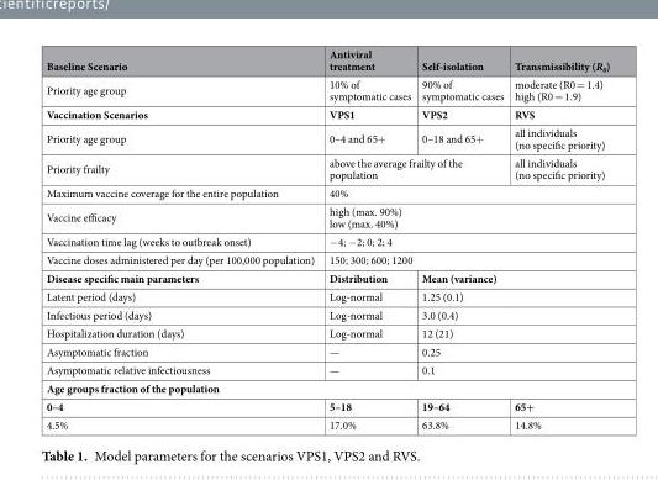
<table><thead><tr><td>Baseline Scenario</td><td>Antiviral treatment</td><td>Self-isolation</td><td>Transmissibility (R<sub>0</sub>)</td></tr></thead><tbody><tr><td>Priority age group</td><td>10% of symptomatic cases</td><td>90% of symptomatic cases</td><td>moderate (R0 = 1.4) high (R0 = 1.9)</td></tr><tr><td>Vaccination Scenarios</td><td>VPS1</td><td>VPS2</td><td>RVS</td></tr><tr><td>Priority age group</td><td>0–4 and 65+</td><td>0–18 and 65+</td><td>all individuals (no specific priority)</td></tr><tr><td>Priority frailty</td><td colspan="2">above the average frailty of the population</td><td>all individuals (no specific priority)</td></tr><tr><td>Maximum vaccine coverage for the entire population</td><td colspan="3">40%</td></tr><tr><td>Vaccine efficacy</td><td colspan="3">high (max. 90%) low (max. 40%)</td></tr><tr><td>Vaccination time lag (weeks to outbreak onset)</td><td colspan="3">−4; −2; 0; 2; 4</td></tr><tr><td>Vaccine doses administered per day (per 100,000 population)</td><td colspan="3">150; 300; 600; 1200</td></tr><tr><td>Disease specific main parameters</td><td>Distribution</td><td colspan="2">Mean (variance)</td></tr><tr><td>Latent period (days)</td><td>Log-normal</td><td colspan="2">1.25 (0.1)</td></tr><tr><td>Infectious period (days)</td><td>Log-normal</td><td colspan="2">3.0 (0.4)</td></tr><tr><td>Hospitalization duration (days)</td><td>Log-normal</td><td colspan="2">12 (21)</td></tr><tr><td>Asymptomatic fraction</td><td>—</td><td colspan="2">0.25</td></tr><tr><td>Asymptomatic relative infectiousness</td><td>—</td><td colspan="2">0.1</td></tr><tr><td colspan="4">Age groups fraction of the population</td></tr><tr><td>0–4</td><td>5–18</td><td>19–64</td><td>65+</td></tr><tr><td>4.5%</td><td>17.0%</td><td>63.8%</td><td>14.8%</td></tr></tbody></table>